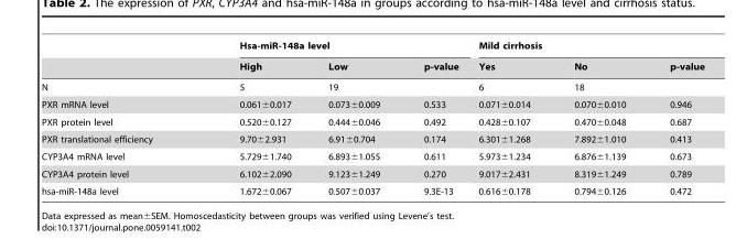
<table><thead><tr><td rowspan="2"></td><td colspan="3">Hsa-miR-148a level</td><td colspan="3">Mild cirrhosis</td></tr><tr><td>High</td><td>Low</td><td>p-value</td><td>Yes</td><td>No</td><td>p-value</td></tr></thead><tbody><tr><td>N</td><td>5</td><td>19</td><td></td><td>6</td><td>18</td><td></td></tr><tr><td>PXR mRNA level</td><td>0.061±0.017</td><td>0.073±0.009</td><td>0.533</td><td>0.071±0.014</td><td>0.070±0.010</td><td>0.946</td></tr><tr><td>PXR protein level</td><td>0.520±0.127</td><td>0.444±0.046</td><td>0.492</td><td>0.428±0.107</td><td>0.470±0.048</td><td>0.687</td></tr><tr><td>PXR translational efficiency</td><td>9.70±2.931</td><td>6.91±0.704</td><td>0.174</td><td>6.301±1.268</td><td>7.892±1.010</td><td>0.413</td></tr><tr><td>CYP3A4 mRNA level</td><td>5.729±1.740</td><td>6.893±1.055</td><td>0.611</td><td>5.973±1.234</td><td>6.876±1.139</td><td>0.673</td></tr><tr><td>CYP3A4 protein level</td><td>6.102±2.090</td><td>9.123±1.249</td><td>0.270</td><td>9.017±2.431</td><td>8.319±1.249</td><td>0.789</td></tr><tr><td>hsa-miR-148a level</td><td>1.672±0.067</td><td>0.507±0.037</td><td>9.3E-13</td><td>0.616±0.178</td><td>0.794±0.126</td><td>0.472</td></tr></tbody></table>